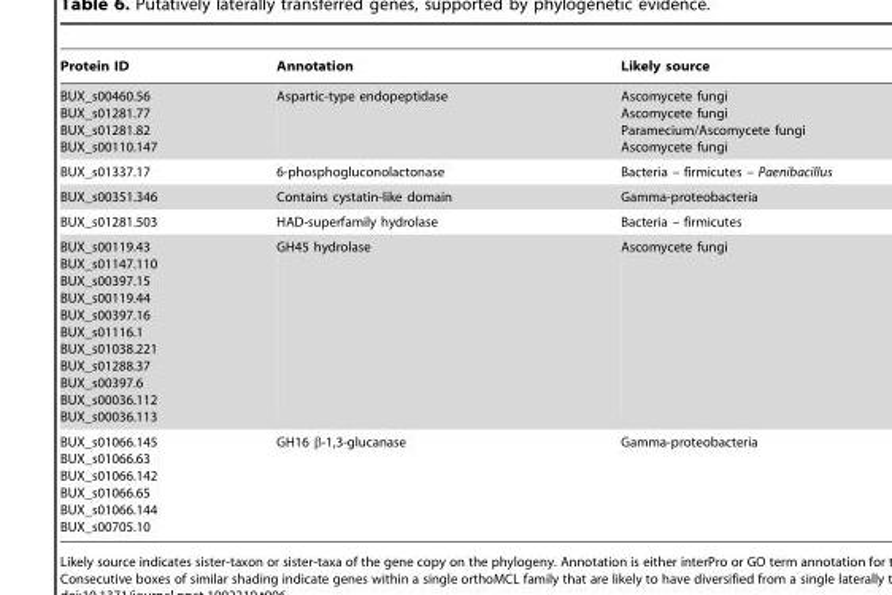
<table><thead><tr><td>Protein ID</td><td>Annotation</td><td>Likely source</td></tr></thead><tbody><tr><td>BUX_s00460.56 BUX_s01281.77 BUX_s01281.82 BUX_s00110.147</td><td>Aspartic-type endopeptidase</td><td>Ascomycete fungi Ascomycete fungi Paramecium/Ascomycete fungi Ascomycete fungi</td></tr><tr><td>BUX_s01337.17</td><td>6-phosphogluconolactonase</td><td>Bacteria – firmicutes – Paenibacillus</td></tr><tr><td>BUX_s00351.346</td><td>Contains cystatin-like domain</td><td>Gamma-proteobacteria</td></tr><tr><td>BUX_s01281.503</td><td>HAD-superfamily hydrolase</td><td>Bacteria – firmicutes</td></tr><tr><td>BUX_s00119.43 BUX_s01147.110 BUX_s00397.15 BUX_s00119.44 BUX_s00397.16 BUX_s01116.1 BUX_s01038.221 BUX_s01288.37 BUX_s00397.6 BUX_s00036.112 BUX_s00036.113</td><td>GH45 hydrolase</td><td>Ascomycete fungi</td></tr><tr><td>BUX_s01066.145 BUX_s01066.63 BUX_s01066.142 BUX_s01066.65 BUX_s01066.144 BUX_s00705.10</td><td>GH16 β-1,3-glucanase</td><td>Gamma-proteobacteria</td></tr></tbody></table>